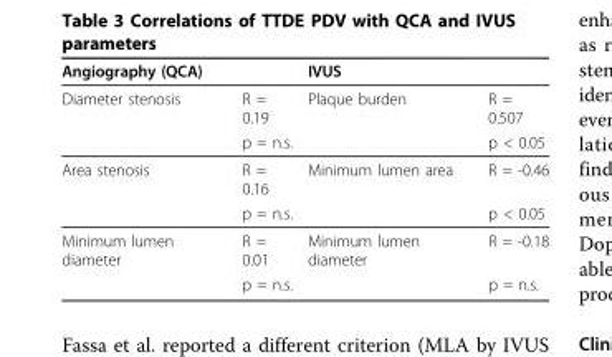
<table><thead><tr><td colspan="2">Angiography (QCA)</td><td colspan="2">IVUS</td></tr><tr><td>Diameter stenosis</td><td>R = 0.19</td><td>Plaque burden</td><td>R = 0.507</td></tr></thead><tbody><tr><td></td><td>p = n.s.</td><td></td><td>p &lt; 0.05</td></tr><tr><td rowspan="2">Area stenosis</td><td>R = 0.16</td><td>Minimum lumen area</td><td>R = -0.46</td></tr><tr><td>p = n.s.</td><td></td><td>p &lt; 0.05</td></tr><tr><td rowspan="2">Minimum lumen diameter</td><td>R = 0.01</td><td>Minimum lumen diameter</td><td>R = -0.18</td></tr><tr><td>p = n.s.</td><td></td><td>p = n.s.</td></tr></tbody></table>